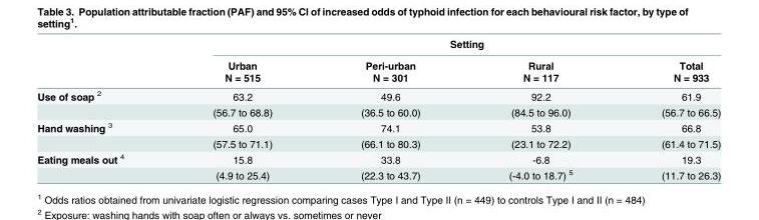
<table><thead><tr><td rowspan="3"></td><td colspan="4">Setting</td></tr><tr><td rowspan="2">Urban N = 515</td><td rowspan="2">Peri-urban N = 301</td><td rowspan="2">Rural N = 117</td><td rowspan="2">Total N = 933</td></tr><tr></tr></thead><tbody><tr><td rowspan="2">Use of soap <sup>2</sup></td><td>63.2</td><td>49.6</td><td>92.2</td><td>61.9</td></tr><tr><td>(56.7 to 68.8)</td><td>(36.5 to 60.0)</td><td>(84.5 to 96.0)</td><td>(56.7 to 66.5)</td></tr><tr><td rowspan="2">Hand washing <sup>3</sup></td><td>65.0</td><td>74.1</td><td>53.8</td><td>66.8</td></tr><tr><td>(57.5 to 71.1)</td><td>(66.1 to 80.3)</td><td>(23.1 to 72.2)</td><td>(61.4 to 71.5)</td></tr><tr><td rowspan="2">Eating meals out <sup>4</sup></td><td>15.8</td><td>33.8</td><td>-6.8</td><td>19.3</td></tr><tr><td>(4.9 to 25.4)</td><td>(22.3 to 43.7)</td><td>(-4.0 to 18.7) <sup>5</sup></td><td>(11.7 to 26.3)</td></tr></tbody></table>